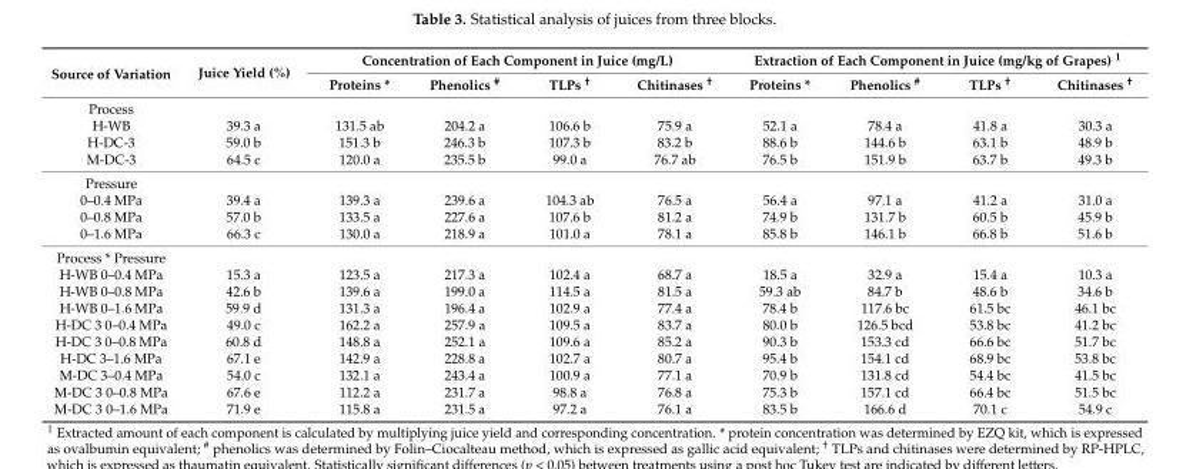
<table><thead><tr><td rowspan="2">Source of Variation</td><td rowspan="2">Juice Yield (%)</td><td colspan="4">Concentration of Each Component in Juice (mg/L)</td><td colspan="4">Extraction of Each Component in Juice (mg/kg of Grapes) <sup>1</sup></td></tr><tr><td>Proteins *</td><td>Phenolics <sup>#</sup></td><td>TLPs <sup>†</sup></td><td>Chitinases <sup>†</sup></td><td>Proteins *</td><td>Phenolics <sup>#</sup></td><td>TLPs <sup>†</sup></td><td>Chitinases <sup>†</sup></td></tr></thead><tbody><tr><td colspan="10">Process</td></tr><tr><td>H-WB</td><td>39.3 a</td><td>131.5 ab</td><td>204.2 a</td><td>106.6 b</td><td>75.9 a</td><td>52.1 a</td><td>78.4 a</td><td>41.8 a</td><td>30.3 a</td></tr><tr><td>H-DC-3</td><td>59.0 b</td><td>151.3 b</td><td>246.3 b</td><td>107.3 b</td><td>83.2 b</td><td>88.6 b</td><td>144.6 b</td><td>63.1 b</td><td>48.9 b</td></tr><tr><td>M-DC-3</td><td>64.5 c</td><td>120.0 a</td><td>235.5 b</td><td>99.0 a</td><td>76.7 ab</td><td>76.5 b</td><td>151.9 b</td><td>63.7 b</td><td>49.3 b</td></tr><tr><td colspan="10">Pressure</td></tr><tr><td>0–0.4 MPa</td><td>39.4 a</td><td>139.3 a</td><td>239.6 a</td><td>104.3 ab</td><td>76.5 a</td><td>56.4 a</td><td>97.1 a</td><td>41.2 a</td><td>31.0 a</td></tr><tr><td>0–0.8 MPa</td><td>57.0 b</td><td>133.5 a</td><td>227.6 a</td><td>107.6 b</td><td>81.2 a</td><td>74.9 b</td><td>131.7 b</td><td>60.5 b</td><td>45.9 b</td></tr><tr><td>0–1.6 MPa</td><td>66.3 c</td><td>130.0 a</td><td>218.9 a</td><td>101.0 a</td><td>78.1 a</td><td>85.8 b</td><td>146.1 b</td><td>66.8 b</td><td>51.6 b</td></tr><tr><td colspan="10">Process * Pressure</td></tr><tr><td>H-WB 0–0.4 MPa</td><td>15.3 a</td><td>123.5 a</td><td>217.3 a</td><td>102.4 a</td><td>68.7 a</td><td>18.5 a</td><td>32.9 a</td><td>15.4 a</td><td>10.3 a</td></tr><tr><td>H-WB 0–0.8 MPa</td><td>42.6 b</td><td>139.6 a</td><td>199.0 a</td><td>114.5 a</td><td>81.5 a</td><td>59.3 ab</td><td>84.7 b</td><td>48.6 b</td><td>34.6 b</td></tr><tr><td>H-WB 0–1.6 MPa</td><td>59.9 d</td><td>131.3 a</td><td>196.4 a</td><td>102.9 a</td><td>77.4 a</td><td>78.4 b</td><td>117.6 bc</td><td>61.5 bc</td><td>46.1 bc</td></tr><tr><td>H-DC 3 0–0.4 MPa</td><td>49.0 c</td><td>162.2 a</td><td>257.9 a</td><td>109.5 a</td><td>83.7 a</td><td>80.0 b</td><td>126.5 bcd</td><td>53.8 bc</td><td>41.2 bc</td></tr><tr><td>H-DC 3 0–0.8 MPa</td><td>60.8 d</td><td>148.8 a</td><td>252.1 a</td><td>109.6 a</td><td>85.2 a</td><td>90.3 b</td><td>153.3 cd</td><td>66.6 bc</td><td>51.7 bc</td></tr><tr><td>H-DC 3–1.6 MPa</td><td>67.1 e</td><td>142.9 a</td><td>228.8 a</td><td>102.7 a</td><td>80.7 a</td><td>95.4 b</td><td>154.1 cd</td><td>68.9 bc</td><td>53.8 bc</td></tr><tr><td>M-DC 3–0.4 MPa</td><td>54.0 c</td><td>132.1 a</td><td>243.4 a</td><td>100.9 a</td><td>77.1 a</td><td>70.9 b</td><td>131.8 cd</td><td>54.4 bc</td><td>41.5 bc</td></tr><tr><td>M-DC 3 0–0.8 MPa</td><td>67.6 e</td><td>112.2 a</td><td>231.7 a</td><td>98.8 a</td><td>76.8 a</td><td>75.3 b</td><td>157.1 cd</td><td>66.4 bc</td><td>51.5 bc</td></tr><tr><td>M-DC 3 0–1.6 MPa</td><td>71.9 e</td><td>115.8 a</td><td>231.5 a</td><td>97.2 a</td><td>76.1 a</td><td>83.5 b</td><td>166.6 d</td><td>70.1 c</td><td>54.9 c</td></tr></tbody></table>